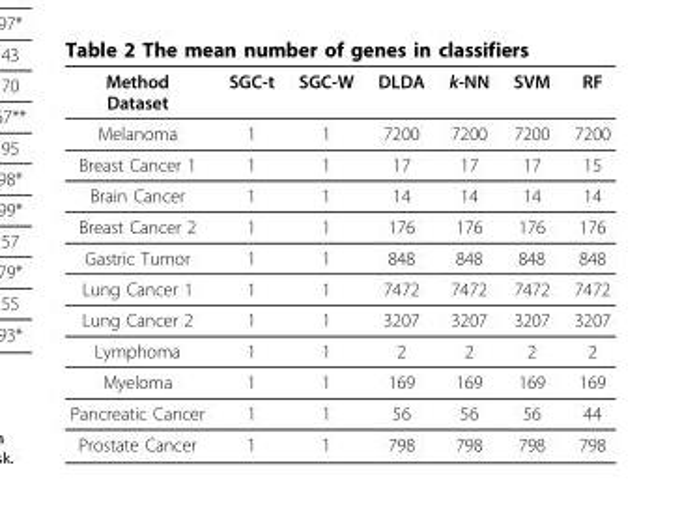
<table><thead><tr><td>Method Dataset</td><td>SGC-t</td><td>SGC-W</td><td>DLDA</td><td>k-NN</td><td>SVM</td><td>RF</td></tr></thead><tbody><tr><td>Melanoma</td><td>1</td><td>1</td><td>7200</td><td>7200</td><td>7200</td><td>7200</td></tr><tr><td>Breast Cancer 1</td><td>1</td><td>1</td><td>17</td><td>17</td><td>17</td><td>15</td></tr><tr><td>Brain Cancer</td><td>1</td><td>1</td><td>14</td><td>14</td><td>14</td><td>14</td></tr><tr><td>Breast Cancer 2</td><td>1</td><td>1</td><td>176</td><td>176</td><td>176</td><td>176</td></tr><tr><td>Gastric Tumor</td><td>1</td><td>1</td><td>848</td><td>848</td><td>848</td><td>848</td></tr><tr><td>Lung Cancer 1</td><td>1</td><td>1</td><td>7472</td><td>7472</td><td>7472</td><td>7472</td></tr><tr><td>Lung Cancer 2</td><td>1</td><td>1</td><td>3207</td><td>3207</td><td>3207</td><td>3207</td></tr><tr><td>Lymphoma</td><td>1</td><td>1</td><td>2</td><td>2</td><td>2</td><td>2</td></tr><tr><td>Myeloma</td><td>1</td><td>1</td><td>169</td><td>169</td><td>169</td><td>169</td></tr><tr><td>Pancreatic Cancer</td><td>1</td><td>1</td><td>56</td><td>56</td><td>56</td><td>44</td></tr><tr><td>Prostate Cancer</td><td>1</td><td>1</td><td>798</td><td>798</td><td>798</td><td>798</td></tr></tbody></table>